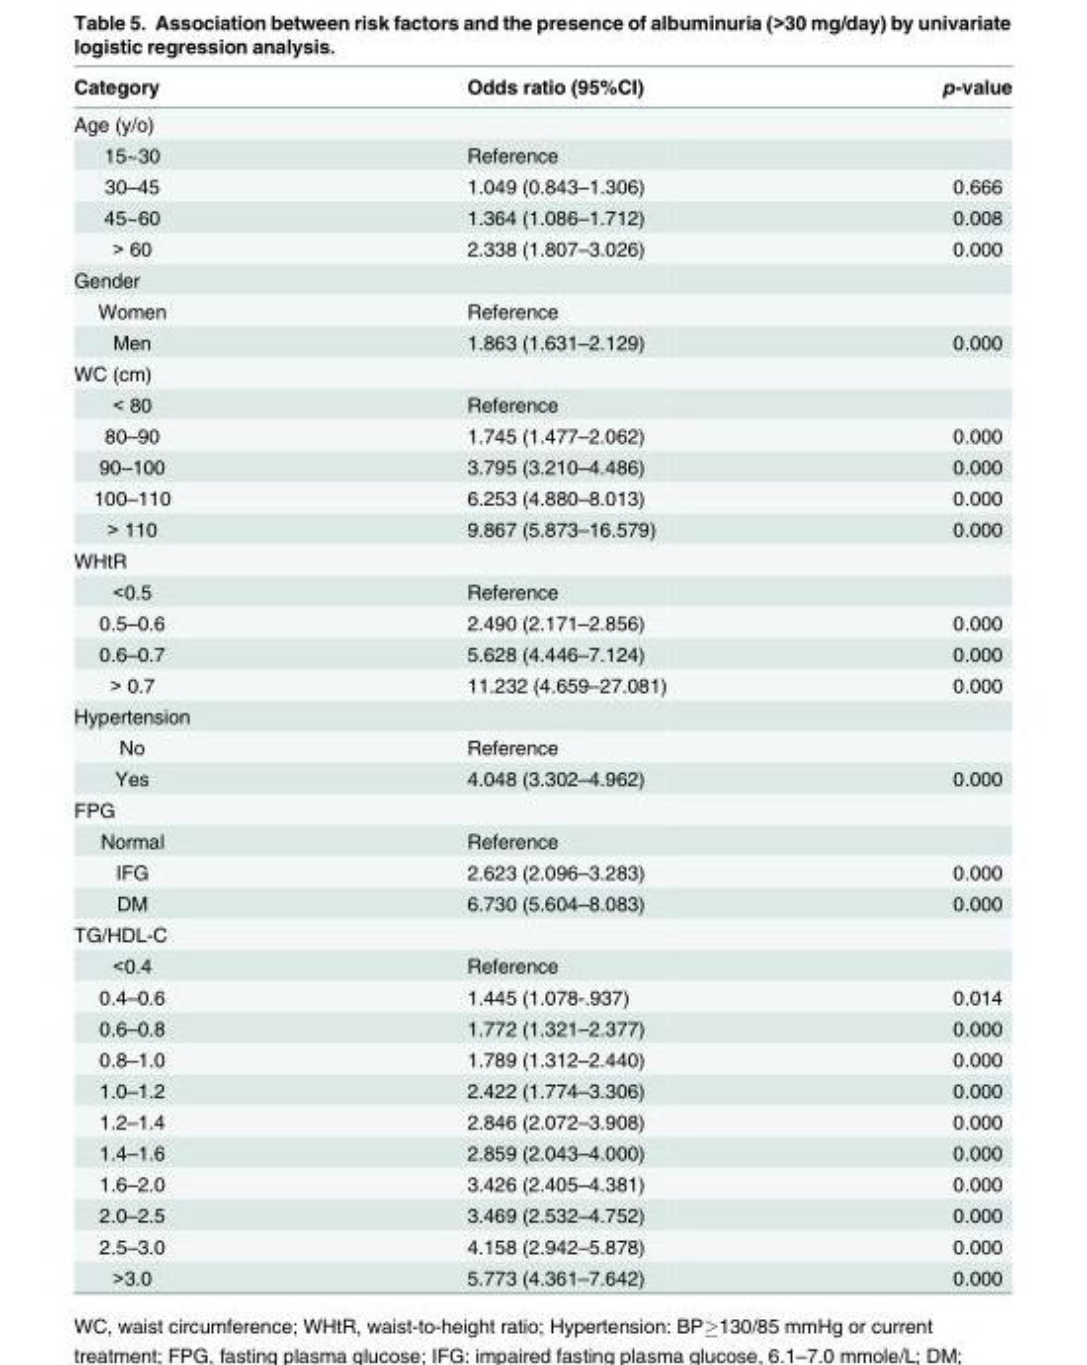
<table><thead><tr><td>Category</td><td>Odds ratio (95%CI)</td><td>p-value</td></tr></thead><tbody><tr><td colspan="3">Age (y/o)</td></tr><tr><td>15~30</td><td>Reference</td><td></td></tr><tr><td>30–45</td><td>1.049 (0.843–1.306)</td><td>0.666</td></tr><tr><td>45~60</td><td>1.364 (1.086–1.712)</td><td>0.008</td></tr><tr><td>&gt; 60</td><td>2.338 (1.807–3.026)</td><td>0.000</td></tr><tr><td colspan="3">Gender</td></tr><tr><td>Women</td><td>Reference</td><td></td></tr><tr><td>Men</td><td>1.863 (1.631–2.129)</td><td>0.000</td></tr><tr><td colspan="3">WC (cm)</td></tr><tr><td>&lt; 80</td><td>Reference</td><td></td></tr><tr><td>80–90</td><td>1.745 (1.477–2.062)</td><td>0.000</td></tr><tr><td>90–100</td><td>3.795 (3.210–4.486)</td><td>0.000</td></tr><tr><td>100–110</td><td>6.253 (4.880–8.013)</td><td>0.000</td></tr><tr><td>&gt; 110</td><td>9.867 (5.873–16.579)</td><td>0.000</td></tr><tr><td colspan="3">WHtR</td></tr><tr><td>&lt;0.5</td><td>Reference</td><td></td></tr><tr><td>0.5–0.6</td><td>2.490 (2.171–2.856)</td><td>0.000</td></tr><tr><td>0.6–0.7</td><td>5.628 (4.446–7.124)</td><td>0.000</td></tr><tr><td>&gt; 0.7</td><td>11.232 (4.659–27.081)</td><td>0.000</td></tr><tr><td colspan="3">Hypertension</td></tr><tr><td>No</td><td>Reference</td><td></td></tr><tr><td>Yes</td><td>4.048 (3.302–4.962)</td><td>0.000</td></tr><tr><td colspan="3">FPG</td></tr><tr><td>Normal</td><td>Reference</td><td></td></tr><tr><td>IFG</td><td>2.623 (2.096–3.283)</td><td>0.000</td></tr><tr><td>DM</td><td>6.730 (5.604–8.083)</td><td>0.000</td></tr><tr><td colspan="3">TG/HDL-C</td></tr><tr><td>&lt;0.4</td><td>Reference</td><td></td></tr><tr><td>0.4–0.6</td><td>1.445 (1.078-.937)</td><td>0.014</td></tr><tr><td>0.6–0.8</td><td>1.772 (1.321–2.377)</td><td>0.000</td></tr><tr><td>0.8–1.0</td><td>1.789 (1.312–2.440)</td><td>0.000</td></tr><tr><td>1.0–1.2</td><td>2.422 (1.774–3.306)</td><td>0.000</td></tr><tr><td>1.2–1.4</td><td>2.846 (2.072–3.908)</td><td>0.000</td></tr><tr><td>1.4–1.6</td><td>2.859 (2.043–4.000)</td><td>0.000</td></tr><tr><td>1.6–2.0</td><td>3.426 (2.405–4.381)</td><td>0.000</td></tr><tr><td>2.0–2.5</td><td>3.469 (2.532–4.752)</td><td>0.000</td></tr><tr><td>2.5–3.0</td><td>4.158 (2.942–5.878)</td><td>0.000</td></tr><tr><td>&gt;3.0</td><td>5.773 (4.361–7.642)</td><td>0.000</td></tr></tbody></table>